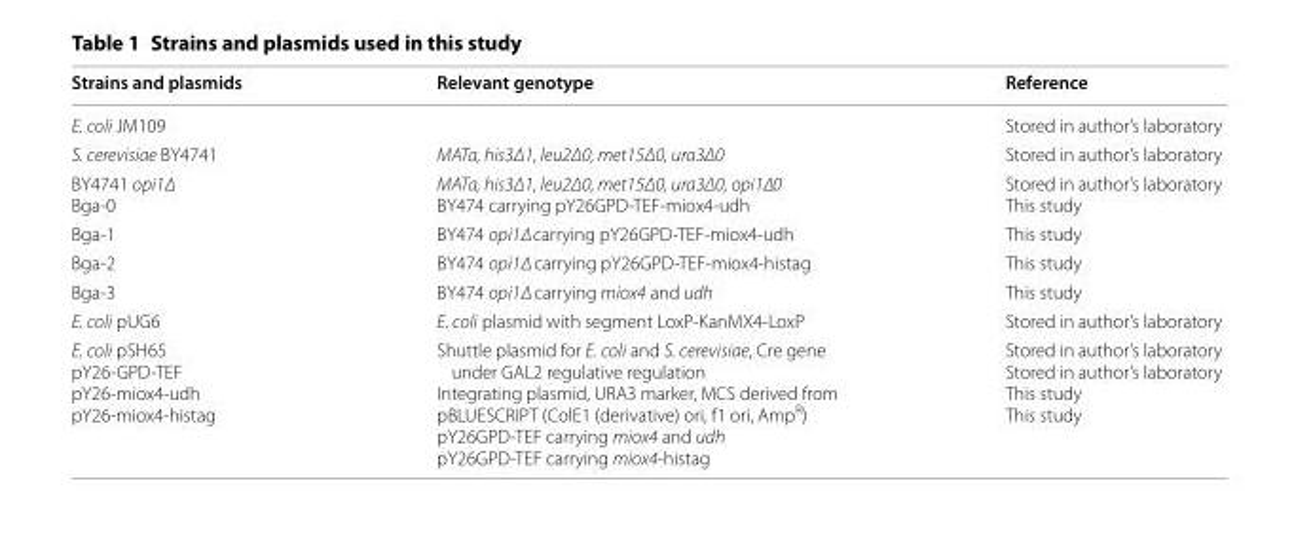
<table><thead><tr><td>Strains and plasmids</td><td>Relevant genotype</td><td>Reference</td></tr></thead><tbody><tr><td>E. coli JM109</td><td></td><td>Stored in author’s laboratory</td></tr><tr><td>S. cerevisiae BY4741</td><td>MATa, his3Δ1, leu2Δ0, met15Δ0, ura3Δ0</td><td>Stored in author’s laboratory</td></tr><tr><td>BY4741 opi1∆ Bga-0</td><td>MATa, his3Δ1, leu2Δ0, met15Δ0, ura3Δ0, opi1∆0 BY474 carrying pY26GPD-TEF-miox4-udh</td><td>Stored in author’s laboratory This study</td></tr><tr><td>Bga-1</td><td>BY474 opi1∆ carrying pY26GPD-TEF-miox4-udh</td><td>This study</td></tr><tr><td>Bga-2</td><td>BY474 opi1∆ carrying pY26GPD-TEF-miox4-histag</td><td>This study</td></tr><tr><td>Bga-3</td><td>BY474 opi1∆ carrying miox4 and udh</td><td>This study</td></tr><tr><td>E. coli pUG6</td><td>E. coli plasmid with segment LoxP-KanMX4-LoxP</td><td>Stored in author’s laboratory</td></tr><tr><td>E. coli pSH65 pY26-GPD-TEF pY26-miox4-udh pY26-miox4-histag</td><td>Shuttle plasmid for E. coli and S. cerevisiae, Cre gene under GAL2 regulative regulation Integrating plasmid, URA3 marker, MCS derived from pBLUESCRIPT (ColE1 (derivative) ori, f1 ori, Amp<sup>R</sup>) pY26GPD-TEF carrying miox4 and udh pY26GPD-TEF carrying miox4-histag</td><td>Stored in author’s laboratory Stored in author’s laboratory This study This study</td></tr></tbody></table>